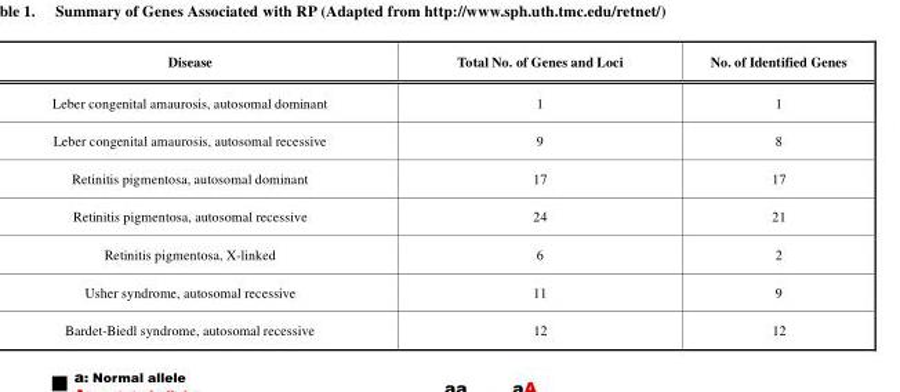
<table><thead><tr><td>Disease</td><td>Total No. of Genes and Loci</td><td>No. of Identified Genes</td></tr></thead><tbody><tr><td>Leber congenital amaurosis, autosomal dominant</td><td>1</td><td>1</td></tr><tr><td>Leber congenital amaurosis, autosomal recessive</td><td>9</td><td>8</td></tr><tr><td>Retinitis pigmentosa, autosomal dominant</td><td>17</td><td>17</td></tr><tr><td>Retinitis pigmentosa, autosomal recessive</td><td>24</td><td>21</td></tr><tr><td>Retinitis pigmentosa, X-linked</td><td>6</td><td>2</td></tr><tr><td>Usher syndrome, autosomal recessive</td><td>11</td><td>9</td></tr><tr><td>Bardet-Biedl syndrome, autosomal recessive</td><td>12</td><td>12</td></tr></tbody></table>